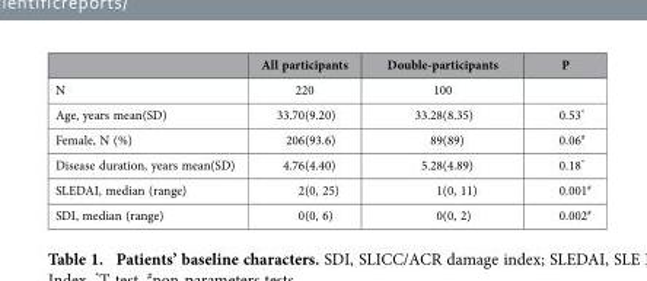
<table><thead><tr><td></td><td>All participants</td><td>Double-participants</td><td>P</td></tr></thead><tbody><tr><td>N</td><td>220</td><td>100</td><td></td></tr><tr><td>Age, years mean(SD)</td><td>33.70(9.20)</td><td>33.28(8.35)</td><td>0.53*</td></tr><tr><td>Female, N (%)</td><td>206(93.6)</td><td>89(89)</td><td>0.06#</td></tr><tr><td>Disease duration, years mean(SD)</td><td>4.76(4.40)</td><td>5.28(4.89)</td><td>0.18*</td></tr><tr><td>SLEDAI, median (range)</td><td>2(0, 25)</td><td>1(0, 11)</td><td>0.001#</td></tr><tr><td>SDI, median (range)</td><td>0(0, 6)</td><td>0(0, 2)</td><td>0.002#</td></tr></tbody></table>